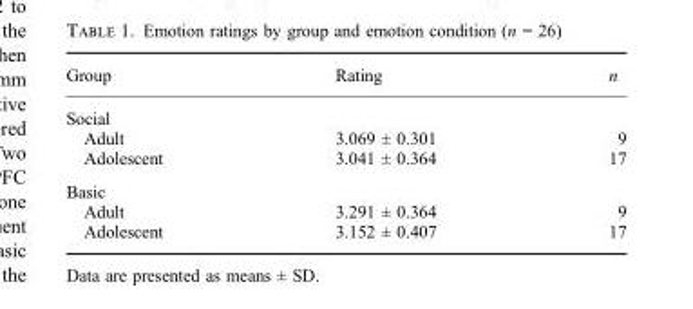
<table><thead><tr><td>Group</td><td>Rating</td><td>n</td></tr></thead><tbody><tr><td colspan="3">Social</td></tr><tr><td>Adult</td><td>3.069 ± 0.301</td><td>9</td></tr><tr><td>Adolescent</td><td>3.041 ± 0.364</td><td>17</td></tr><tr><td colspan="3">Basic</td></tr><tr><td>Adult</td><td>3.291 ± 0.364</td><td>9</td></tr><tr><td>Adolescent</td><td>3.152 ± 0.407</td><td>17</td></tr></tbody></table>